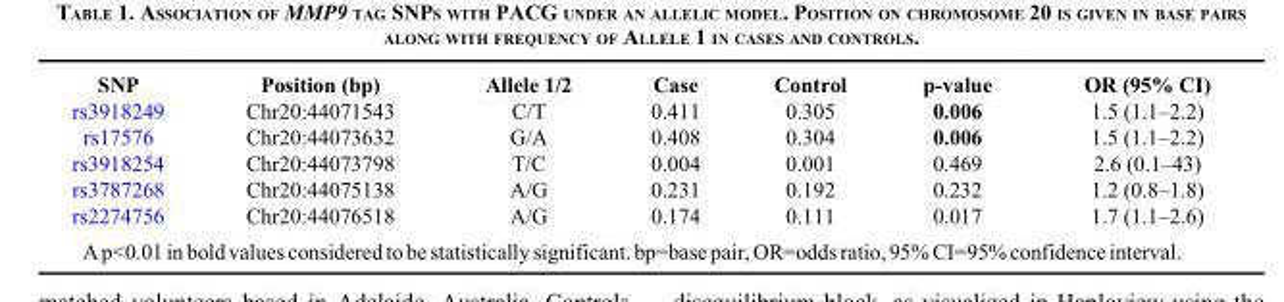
<table><thead><tr><td>SNP</td><td>Position (bp)</td><td>Allele 1/2</td><td>Case</td><td>Control</td><td>p-value</td><td>OR (95% CI)</td></tr></thead><tbody><tr><td>rs3918249</td><td>Chr20:44071543</td><td>C/T</td><td>0.411</td><td>0.305</td><td>0.006</td><td>1.5 (1.1–2.2)</td></tr><tr><td>rs17576</td><td>Chr20:44073632</td><td>G/A</td><td>0.408</td><td>0.304</td><td>0.006</td><td>1.5 (1.1–2.2)</td></tr><tr><td>rs3918254</td><td>Chr20:44073798</td><td>T/C</td><td>0.004</td><td>0.001</td><td>0.469</td><td>2.6 (0.1–43)</td></tr><tr><td>rs3787268</td><td>Chr20:44075138</td><td>A/G</td><td>0.231</td><td>0.192</td><td>0.232</td><td>1.2 (0.8–1.8)</td></tr><tr><td>rs2274756</td><td>Chr20:44076518</td><td>A/G</td><td>0.174</td><td>0.111</td><td>0.017</td><td>1.7 (1.1–2.6)</td></tr></tbody></table>